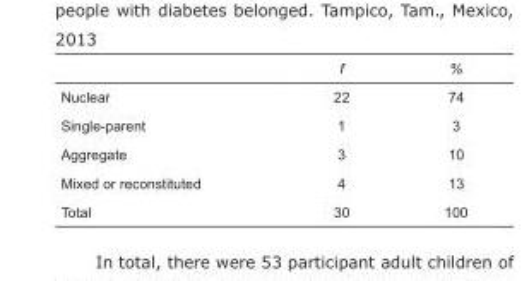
<table><thead><tr><td></td><td>f</td><td>%</td></tr></thead><tbody><tr><td>Nuclear</td><td>22</td><td>74</td></tr><tr><td>Single-parent</td><td>1</td><td>3</td></tr><tr><td>Aggregate</td><td>3</td><td>10</td></tr><tr><td>Mixed or reconstituted</td><td>4</td><td>13</td></tr><tr><td>Total</td><td>30</td><td>100</td></tr></tbody></table>